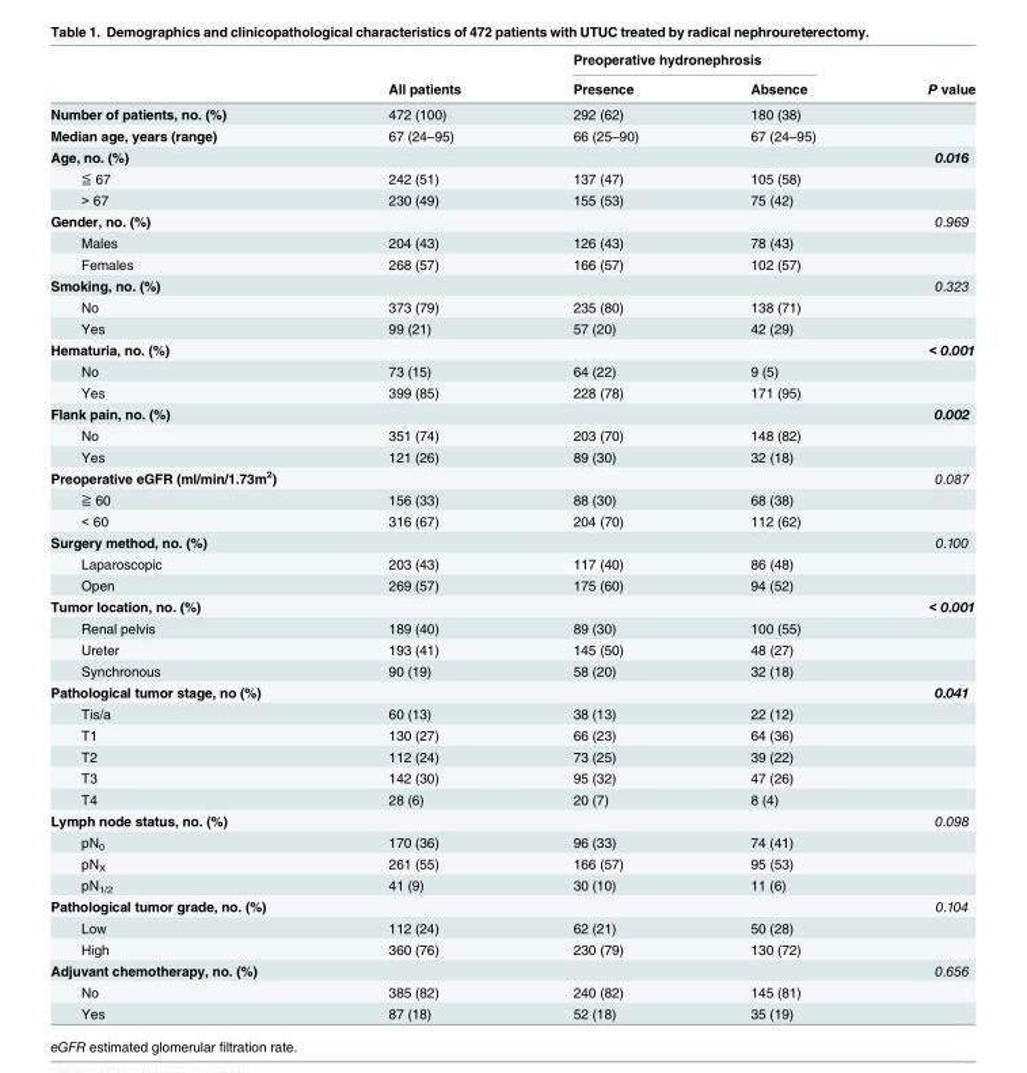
<table><thead><tr><td rowspan="2"></td><td rowspan="2">All patients</td><td colspan="2">Preoperative hydronephrosis</td><td rowspan="2">P value</td></tr><tr><td>Presence</td><td>Absence</td></tr></thead><tbody><tr><td>Number of patients, no. (%)</td><td>472 (100)</td><td>292 (62)</td><td>180 (38)</td><td></td></tr><tr><td>Median age, years (range)</td><td>67 (24–95)</td><td>66 (25–90)</td><td>67 (24–95)</td><td></td></tr><tr><td>Age, no. (%)</td><td></td><td></td><td></td><td>0.016</td></tr><tr><td>≦ 67</td><td>242 (51)</td><td>137 (47)</td><td>105 (58)</td><td></td></tr><tr><td>&gt; 67</td><td>230 (49)</td><td>155 (53)</td><td>75 (42)</td><td></td></tr><tr><td>Gender, no. (%)</td><td></td><td></td><td></td><td>0.969</td></tr><tr><td>Males</td><td>204 (43)</td><td>126 (43)</td><td>78 (43)</td><td></td></tr><tr><td>Females</td><td>268 (57)</td><td>166 (57)</td><td>102 (57)</td><td></td></tr><tr><td>Smoking, no. (%)</td><td></td><td></td><td></td><td>0.323</td></tr><tr><td>No</td><td>373 (79)</td><td>235 (80)</td><td>138 (71)</td><td></td></tr><tr><td>Yes</td><td>99 (21)</td><td>57 (20)</td><td>42 (29)</td><td></td></tr><tr><td>Hematuria, no. (%)</td><td></td><td></td><td></td><td>&lt; 0.001</td></tr><tr><td>No</td><td>73 (15)</td><td>64 (22)</td><td>9 (5)</td><td></td></tr><tr><td>Yes</td><td>399 (85)</td><td>228 (78)</td><td>171 (95)</td><td></td></tr><tr><td>Flank pain, no. (%)</td><td></td><td></td><td></td><td>0.002</td></tr><tr><td>No</td><td>351 (74)</td><td>203 (70)</td><td>148 (82)</td><td></td></tr><tr><td>Yes</td><td>121 (26)</td><td>89 (30)</td><td>32 (18)</td><td></td></tr><tr><td>Preoperative eGFR (ml/min/1.73m<sup>2</sup>)</td><td></td><td></td><td></td><td>0.087</td></tr><tr><td>≧ 60</td><td>156 (33)</td><td>88 (30)</td><td>68 (38)</td><td></td></tr><tr><td>&lt; 60</td><td>316 (67)</td><td>204 (70)</td><td>112 (62)</td><td></td></tr><tr><td>Surgery method, no. (%)</td><td></td><td></td><td></td><td>0.100</td></tr><tr><td>Laparoscopic</td><td>203 (43)</td><td>117 (40)</td><td>86 (48)</td><td></td></tr><tr><td>Open</td><td>269 (57)</td><td>175 (60)</td><td>94 (52)</td><td></td></tr><tr><td>Tumor location, no. (%)</td><td></td><td></td><td></td><td>&lt; 0.001</td></tr><tr><td>Renal pelvis</td><td>189 (40)</td><td>89 (30)</td><td>100 (55)</td><td></td></tr><tr><td>Ureter</td><td>193 (41)</td><td>145 (50)</td><td>48 (27)</td><td></td></tr><tr><td>Synchronous</td><td>90 (19)</td><td>58 (20)</td><td>32 (18)</td><td></td></tr><tr><td>Pathological tumor stage, no (%)</td><td></td><td></td><td></td><td>0.041</td></tr><tr><td>Tis/a</td><td>60 (13)</td><td>38 (13)</td><td>22 (12)</td><td></td></tr><tr><td>T1</td><td>130 (27)</td><td>66 (23)</td><td>64 (36)</td><td></td></tr><tr><td>T2</td><td>112 (24)</td><td>73 (25)</td><td>39 (22)</td><td></td></tr><tr><td>T3</td><td>142 (30)</td><td>95 (32)</td><td>47 (26)</td><td></td></tr><tr><td>T4</td><td>28 (6)</td><td>20 (7)</td><td>8 (4)</td><td></td></tr><tr><td>Lymph node status, no. (%)</td><td></td><td></td><td></td><td>0.098</td></tr><tr><td>pN<sub>0</sub></td><td>170 (36)</td><td>96 (33)</td><td>74 (41)</td><td></td></tr><tr><td>pN<sub>X</sub></td><td>261 (55)</td><td>166 (57)</td><td>95 (53)</td><td></td></tr><tr><td>pN<sub>1/2</sub></td><td>41 (9)</td><td>30 (10)</td><td>11 (6)</td><td></td></tr><tr><td>Pathological tumor grade, no. (%)</td><td></td><td></td><td></td><td>0.104</td></tr><tr><td>Low</td><td>112 (24)</td><td>62 (21)</td><td>50 (28)</td><td></td></tr><tr><td>High</td><td>360 (76)</td><td>230 (79)</td><td>130 (72)</td><td></td></tr><tr><td>Adjuvant chemotherapy, no. (%)</td><td></td><td></td><td></td><td>0.656</td></tr><tr><td>No</td><td>385 (82)</td><td>240 (82)</td><td>145 (81)</td><td></td></tr><tr><td>Yes</td><td>87 (18)</td><td>52 (18)</td><td>35 (19)</td><td></td></tr></tbody></table>